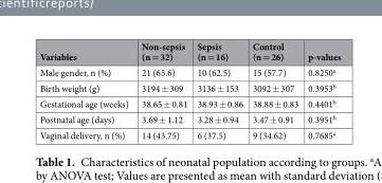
<table><thead><tr><td>Variables</td><td>Non-sepsis (n = 32)</td><td>Sepsis (n = 16)</td><td>Control (n = 26)</td><td>p-values</td></tr></thead><tbody><tr><td>Male gender, n (%)</td><td>21 (65.6)</td><td>10 (62.5)</td><td>15 (57.7)</td><td>0.8250<sup>a</sup></td></tr><tr><td>Birth weight (g)</td><td>3194 ± 309</td><td>3136 ± 153</td><td>3092 ± 307</td><td>0.3953<sup>b</sup></td></tr><tr><td>Gestational age (weeks)</td><td>38.65 ± 0.81</td><td>38.93 ± 0.86</td><td>38.88 ± 0.83</td><td>0.4401<sup>b</sup></td></tr><tr><td>Postnatal age (days)</td><td>3.69 ± 1.12</td><td>3.28 ± 0.94</td><td>3.47 ± 0.91</td><td>0.3951<sup>b</sup></td></tr><tr><td>Vaginal delivery, n (%)</td><td>14 (43.75)</td><td>6 (37.5)</td><td>9 (34.62)</td><td>0.7685<sup>a</sup></td></tr></tbody></table>